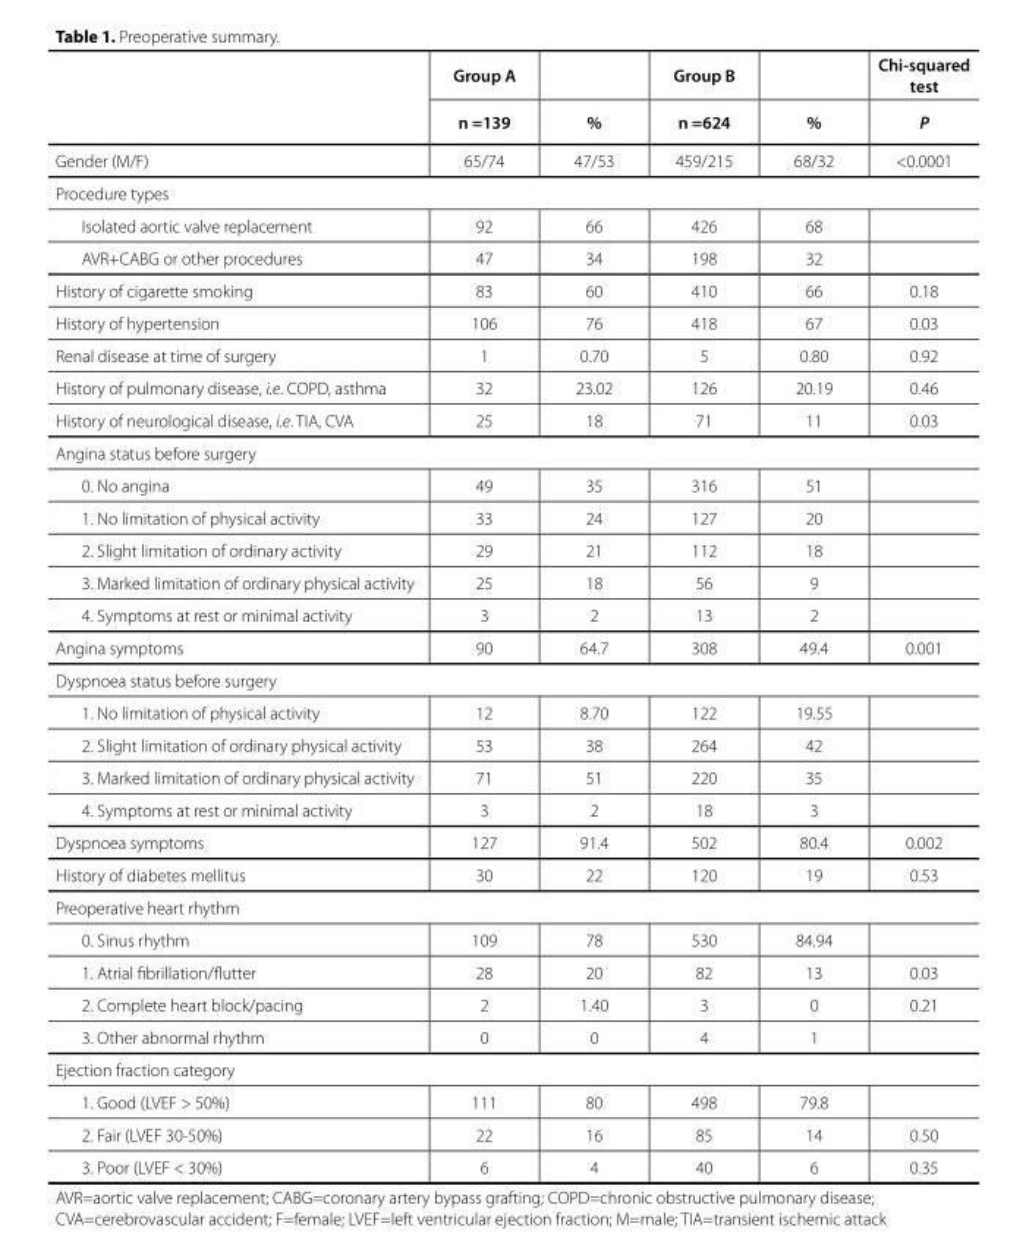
<table><thead><tr><td rowspan="2"></td><td rowspan="2">Group A n =139</td><td rowspan="2">%</td><td rowspan="2">Group B n =624</td><td rowspan="2">%</td><td rowspan="2">Chi-squared test P</td></tr><tr></tr></thead><tbody><tr><td>Gender (M/F)</td><td>65/74</td><td>47/53</td><td>459/215</td><td>68/32</td><td>&lt;0.0001</td></tr><tr><td colspan="6">Procedure types</td></tr><tr><td>Isolated aortic valve replacement</td><td>92</td><td>66</td><td>426</td><td>68</td><td></td></tr><tr><td>AVR+CABG or other procedures</td><td>47</td><td>34</td><td>198</td><td>32</td><td></td></tr><tr><td>History of cigarette smoking</td><td>83</td><td>60</td><td>410</td><td>66</td><td>0.18</td></tr><tr><td>History of hypertension</td><td>106</td><td>76</td><td>418</td><td>67</td><td>0.03</td></tr><tr><td>Renal disease at time of surgery</td><td>1</td><td>0.70</td><td>5</td><td>0.80</td><td>0.92</td></tr><tr><td>History of pulmonary disease, i.e. COPD, asthma</td><td>32</td><td>23.02</td><td>126</td><td>20.19</td><td>0.46</td></tr><tr><td>History of neurological disease, i.e. TIA, CVA</td><td>25</td><td>18</td><td>71</td><td>11</td><td>0.03</td></tr><tr><td colspan="6">Angina status before surgery</td></tr><tr><td>0. No angina</td><td>49</td><td>35</td><td>316</td><td>51</td><td></td></tr><tr><td>1. No limitation of physical activity</td><td>33</td><td>24</td><td>127</td><td>20</td><td></td></tr><tr><td>2. Slight limitation of ordinary activity</td><td>29</td><td>21</td><td>112</td><td>18</td><td></td></tr><tr><td>3. Marked limitation of ordinary physical activity</td><td>25</td><td>18</td><td>56</td><td>9</td><td></td></tr><tr><td>4. Symptoms at rest or minimal activity</td><td>3</td><td>2</td><td>13</td><td>2</td><td></td></tr><tr><td>Angina symptoms</td><td>90</td><td>64.7</td><td>308</td><td>49.4</td><td>0.001</td></tr><tr><td colspan="6">Dyspnoea status before surgery</td></tr><tr><td>1. No limitation of physical activity</td><td>12</td><td>8.70</td><td>122</td><td>19.55</td><td></td></tr><tr><td>2. Slight limitation of ordinary physical activity</td><td>53</td><td>38</td><td>264</td><td>42</td><td></td></tr><tr><td>3. Marked limitation of ordinary physical activity</td><td>71</td><td>51</td><td>220</td><td>35</td><td></td></tr><tr><td>4. Symptoms at rest or minimal activity</td><td>3</td><td>2</td><td>18</td><td>3</td><td></td></tr><tr><td>Dyspnoea symptoms</td><td>127</td><td>91.4</td><td>502</td><td>80.4</td><td>0.002</td></tr><tr><td>History of diabetes mellitus</td><td>30</td><td>22</td><td>120</td><td>19</td><td>0.53</td></tr><tr><td colspan="6">Preoperative heart rhythm</td></tr><tr><td>0. Sinus rhythm</td><td>109</td><td>78</td><td>530</td><td>84.94</td><td></td></tr><tr><td>1. Atrial fibrillation/flutter</td><td>28</td><td>20</td><td>82</td><td>13</td><td>0.03</td></tr><tr><td>2. Complete heart block/pacing</td><td>2</td><td>1.40</td><td>3</td><td>0</td><td>0.21</td></tr><tr><td>3. Other abnormal rhythm</td><td>0</td><td>0</td><td>4</td><td>1</td><td></td></tr><tr><td colspan="6">Ejection fraction category</td></tr><tr><td>1. Good (LVEF &gt; 50%)</td><td>111</td><td>80</td><td>498</td><td>79.8</td><td></td></tr><tr><td>2. Fair (LVEF 30-50%)</td><td>22</td><td>16</td><td>85</td><td>14</td><td>0.50</td></tr><tr><td>3. Poor (LVEF &lt; 30%)</td><td>6</td><td>4</td><td>40</td><td>6</td><td>0.35</td></tr></tbody></table>